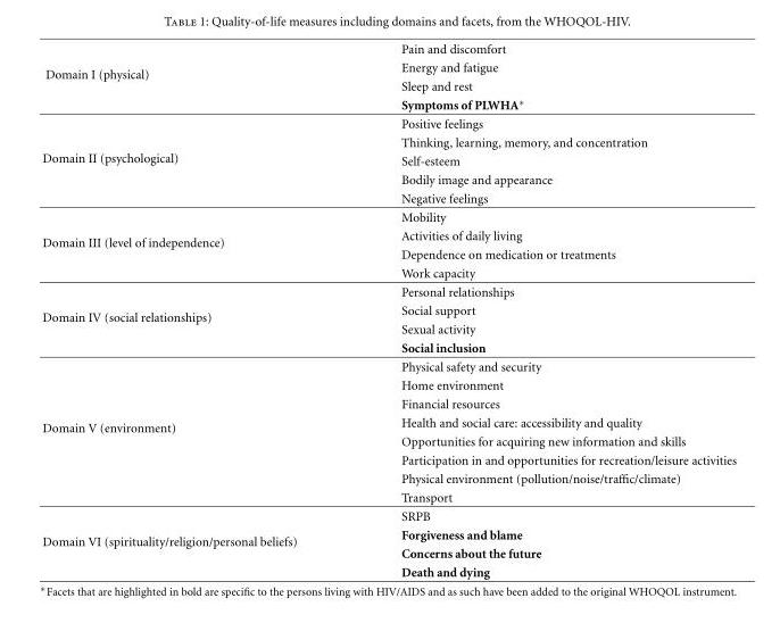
<table><tbody><tr><td rowspan="4">Domain I (physical)</td><td>Pain and discomfort</td></tr><tr><td>Energy and fatigue</td></tr><tr><td>Sleep and rest</td></tr><tr><td>Symptoms of PLWHA∗</td></tr><tr><td rowspan="5">Domain II (psychological)</td><td>Positive feelings</td></tr><tr><td>Thinking, learning, memory, and concentration</td></tr><tr><td>Self-esteem</td></tr><tr><td>Bodily image and appearance</td></tr><tr><td>Negative feelings</td></tr><tr><td rowspan="4">Domain III (level of independence)</td><td>Mobility</td></tr><tr><td>Activities of daily living</td></tr><tr><td>Dependence on medication or treatments</td></tr><tr><td>Work capacity</td></tr><tr><td rowspan="4">Domain IV (social relationships)</td><td>Personal relationships</td></tr><tr><td>Social support</td></tr><tr><td>Sexual activity</td></tr><tr><td>Social inclusion</td></tr><tr><td rowspan="8">Domain V (environment)</td><td>Physical safety and security</td></tr><tr><td>Home environment</td></tr><tr><td>Financial resources</td></tr><tr><td>Health and social care: accessibility and quality</td></tr><tr><td>Opportunities for acquiring new information and skills</td></tr><tr><td>Participation in and opportunities for recreation/leisure activities</td></tr><tr><td>Physical environment (pollution/noise/traffic/climate)</td></tr><tr><td>Transport</td></tr><tr><td rowspan="4">Domain VI (spirituality/religion/personal beliefs)</td><td>SRPB</td></tr><tr><td>Forgiveness and blame</td></tr><tr><td>Concerns about the future</td></tr><tr><td>Death and dying</td></tr></tbody></table>